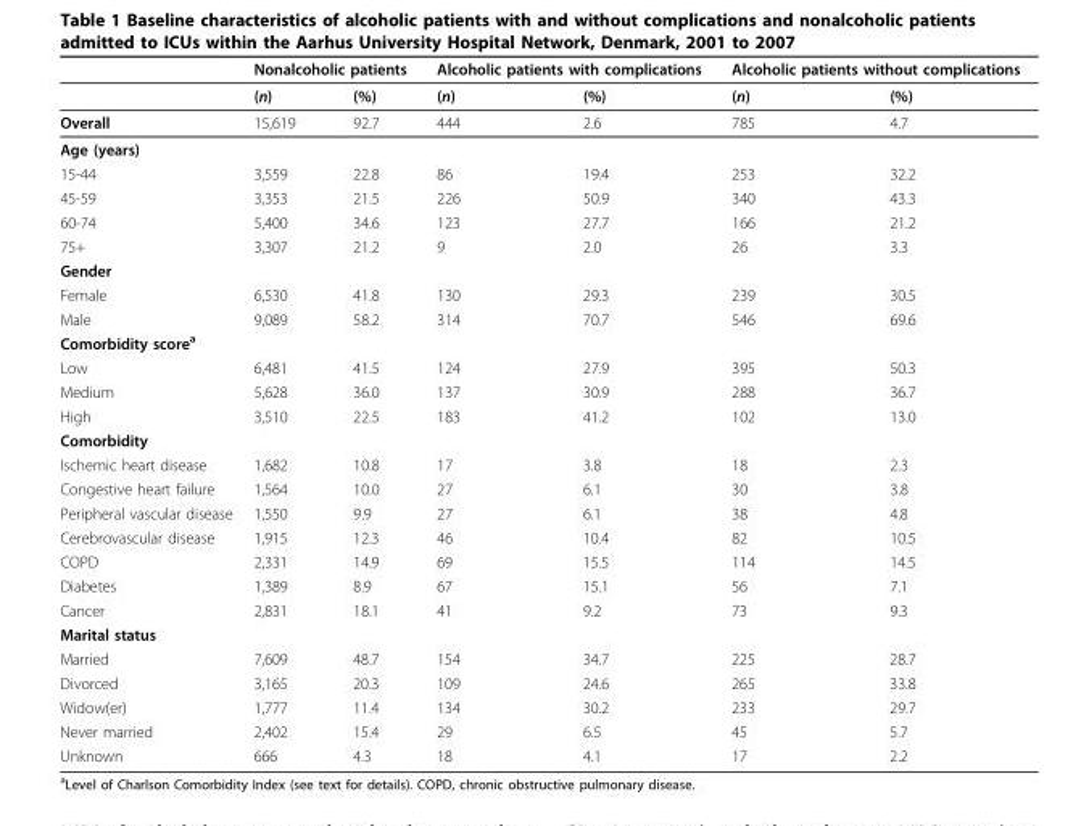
<table><thead><tr><td rowspan="2"></td><td colspan="2">Nonalcoholic patients</td><td colspan="2">Alcoholic patients with complications</td><td colspan="2">Alcoholic patients without complications</td></tr><tr><td>(n)</td><td>(%)</td><td>(n)</td><td>(%)</td><td>(n)</td><td>(%)</td></tr></thead><tbody><tr><td>Overall</td><td>15,619</td><td>92.7</td><td>444</td><td>2.6</td><td>785</td><td>4.7</td></tr><tr><td colspan="7">Age (years)</td></tr><tr><td>15-44</td><td>3,559</td><td>22.8</td><td>86</td><td>19.4</td><td>253</td><td>32.2</td></tr><tr><td>45-59</td><td>3,353</td><td>21.5</td><td>226</td><td>50.9</td><td>340</td><td>43.3</td></tr><tr><td>60-74</td><td>5,400</td><td>34.6</td><td>123</td><td>27.7</td><td>166</td><td>21.2</td></tr><tr><td>75+</td><td>3,307</td><td>21.2</td><td>9</td><td>2.0</td><td>26</td><td>3.3</td></tr><tr><td colspan="7">Gender</td></tr><tr><td>Female</td><td>6,530</td><td>41.8</td><td>130</td><td>29.3</td><td>239</td><td>30.5</td></tr><tr><td>Male</td><td>9,089</td><td>58.2</td><td>314</td><td>70.7</td><td>546</td><td>69.6</td></tr><tr><td colspan="7">Comorbidity score<sup>a</sup></td></tr><tr><td>Low</td><td>6,481</td><td>41.5</td><td>124</td><td>27.9</td><td>395</td><td>50.3</td></tr><tr><td>Medium</td><td>5,628</td><td>36.0</td><td>137</td><td>30.9</td><td>288</td><td>36.7</td></tr><tr><td>High</td><td>3,510</td><td>22.5</td><td>183</td><td>41.2</td><td>102</td><td>13.0</td></tr><tr><td colspan="7">Comorbidity</td></tr><tr><td>Ischemic heart disease</td><td>1,682</td><td>10.8</td><td>17</td><td>3.8</td><td>18</td><td>2.3</td></tr><tr><td>Congestive heart failure</td><td>1,564</td><td>10.0</td><td>27</td><td>6.1</td><td>30</td><td>3.8</td></tr><tr><td>Peripheral vascular disease</td><td>1,550</td><td>9.9</td><td>27</td><td>6.1</td><td>38</td><td>4.8</td></tr><tr><td>Cerebrovascular disease</td><td>1,915</td><td>12.3</td><td>46</td><td>10.4</td><td>82</td><td>10.5</td></tr><tr><td>COPD</td><td>2,331</td><td>14.9</td><td>69</td><td>15.5</td><td>114</td><td>14.5</td></tr><tr><td>Diabetes</td><td>1,389</td><td>8.9</td><td>67</td><td>15.1</td><td>56</td><td>7.1</td></tr><tr><td>Cancer</td><td>2,831</td><td>18.1</td><td>41</td><td>9.2</td><td>73</td><td>9.3</td></tr><tr><td colspan="7">Marital status</td></tr><tr><td>Married</td><td>7,609</td><td>48.7</td><td>154</td><td>34.7</td><td>225</td><td>28.7</td></tr><tr><td>Divorced</td><td>3,165</td><td>20.3</td><td>109</td><td>24.6</td><td>265</td><td>33.8</td></tr><tr><td>Widow(er)</td><td>1,777</td><td>11.4</td><td>134</td><td>30.2</td><td>233</td><td>29.7</td></tr><tr><td>Never married</td><td>2,402</td><td>15.4</td><td>29</td><td>6.5</td><td>45</td><td>5.7</td></tr><tr><td>Unknown</td><td>666</td><td>4.3</td><td>18</td><td>4.1</td><td>17</td><td>2.2</td></tr></tbody></table>